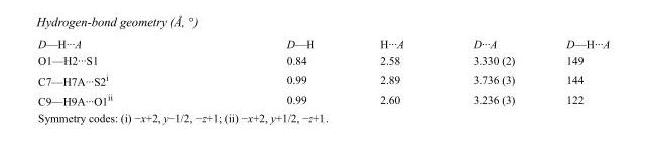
<table><tbody><tr><td>D—H···A</td><td>D—H</td><td>H···A</td><td>D···A</td><td>D—H···A</td></tr><tr><td>O1—H2···S1</td><td>0.84</td><td>2.58</td><td>3.330 (2)</td><td>149</td></tr><tr><td>C7—H7A···S2<sup>i</sup></td><td>0.99</td><td>2.89</td><td>3.736 (3)</td><td>144</td></tr><tr><td>C9—H9A···O1<sup>ii</sup></td><td>0.99</td><td>2.60</td><td>3.236 (3)</td><td>122</td></tr></tbody></table>